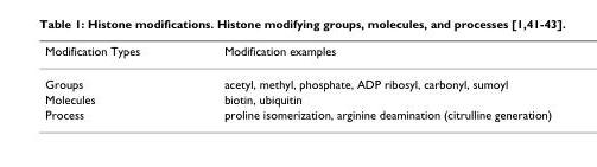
<table><thead><tr><td>Modification Types</td><td>Modification examples</td></tr></thead><tbody><tr><td>Groups</td><td>acetyl, methyl, phosphate, ADP ribosyl, carbonyl, sumoyl</td></tr><tr><td>Molecules</td><td>biotin, ubiquitin</td></tr><tr><td>Process</td><td>proline isomerization, arginine deamination (citrulline generation)</td></tr></tbody></table>